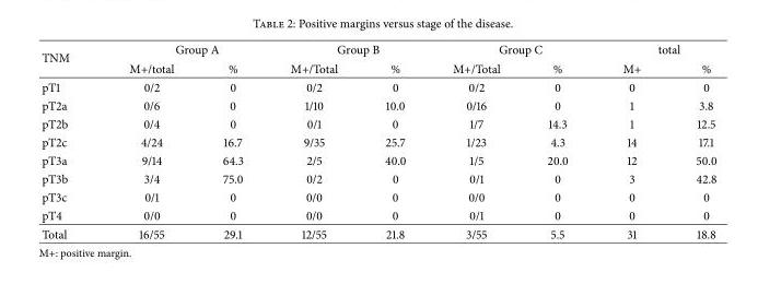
<table><thead><tr><td rowspan="2">TNM</td><td colspan="2">Group A</td><td colspan="2">Group B</td><td colspan="2">Group C</td><td colspan="2">total</td></tr><tr><td>M+/total</td><td>%</td><td>M+/Total</td><td>%</td><td>M+/Total</td><td>%</td><td>M+</td><td>%</td></tr></thead><tbody><tr><td>pT1</td><td>0/2</td><td>0</td><td>0/2</td><td>0</td><td>0/2</td><td>0</td><td>0</td><td>0</td></tr><tr><td>pT2a</td><td>0/6</td><td>0</td><td>1/10</td><td>10.0</td><td>0/16</td><td>0</td><td>1</td><td>3.8</td></tr><tr><td>pT2b</td><td>0/4</td><td>0</td><td>0/1</td><td>0</td><td>1/7</td><td>14.3</td><td>1</td><td>12.5</td></tr><tr><td>pT2c</td><td>4/24</td><td>16.7</td><td>9/35</td><td>25.7</td><td>1/23</td><td>4.3</td><td>14</td><td>17.1</td></tr><tr><td>pT3a</td><td>9/14</td><td>64.3</td><td>2/5</td><td>40.0</td><td>1/5</td><td>20.0</td><td>12</td><td>50.0</td></tr><tr><td>pT3b</td><td>3/4</td><td>75.0</td><td>0/2</td><td>0</td><td>0/1</td><td>0</td><td>3</td><td>42.8</td></tr><tr><td>pT3c</td><td>0/1</td><td>0</td><td>0/0</td><td>0</td><td>0/0</td><td>0</td><td>0</td><td>0</td></tr><tr><td>pT4</td><td>0/0</td><td>0</td><td>0/0</td><td>0</td><td>0/1</td><td>0</td><td>0</td><td>0</td></tr><tr><td>Total</td><td>16/55</td><td>29.1</td><td>12/55</td><td>21.8</td><td>3/55</td><td>5.5</td><td>31</td><td>18.8</td></tr></tbody></table>